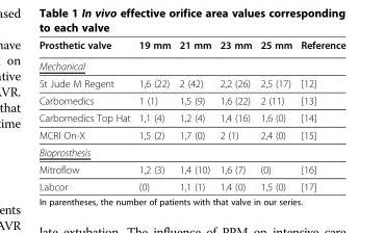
<table><thead><tr><td>Prosthetic valve</td><td>19 mm</td><td>21 mm</td><td>23 mm</td><td>25 mm</td><td>Reference</td></tr></thead><tbody><tr><td colspan="6">Mechanical</td></tr><tr><td>St Jude M Regent</td><td>1,6 (22)</td><td>2 (42)</td><td>2,2 (26)</td><td>2,5 (17)</td><td>[12]</td></tr><tr><td>Carbomedics</td><td>1 (1)</td><td>1,5 (9)</td><td>1,6 (22)</td><td>2 (11)</td><td>[13]</td></tr><tr><td>Carbomedics Top Hat</td><td>1,1 (4)</td><td>1,2 (4)</td><td>1,4 (16)</td><td>1,6 (0)</td><td>[14]</td></tr><tr><td>MCRI On-X</td><td>1,5 (2)</td><td>1,7 (0)</td><td>2 (1)</td><td>2,4 (0)</td><td>[15]</td></tr><tr><td colspan="6">Bioprosthesis</td></tr><tr><td>Mitroflow</td><td>1,2 (3)</td><td>1,4 (10)</td><td>1,6 (7)</td><td>(0)</td><td>[16]</td></tr><tr><td>Labcor</td><td>(0)</td><td>1,1 (1)</td><td>1,4 (0)</td><td>1,5 (0)</td><td>[17]</td></tr></tbody></table>